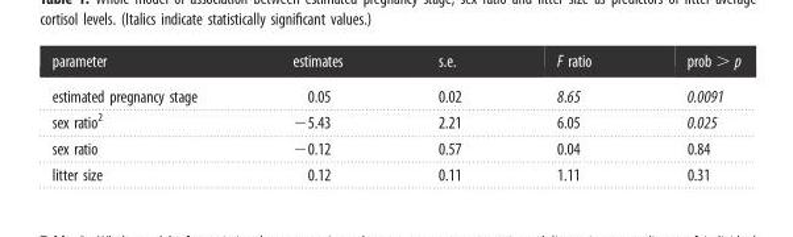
<table><thead><tr><td>parameter</td><td>estimates</td><td>s.e.</td><td>F ratio</td><td>prob &gt; p</td></tr></thead><tbody><tr><td>estimated pregnancy stage</td><td>0.05</td><td>0.02</td><td>8.65</td><td>0.0091</td></tr><tr><td>sex ratio<sup>2</sup></td><td>−5.43</td><td>2.21</td><td>6.05</td><td>0.025</td></tr><tr><td>sex ratio</td><td>−0.12</td><td>0.57</td><td>0.04</td><td>0.84</td></tr><tr><td>litter size</td><td>0.12</td><td>0.11</td><td>1.11</td><td>0.31</td></tr></tbody></table>